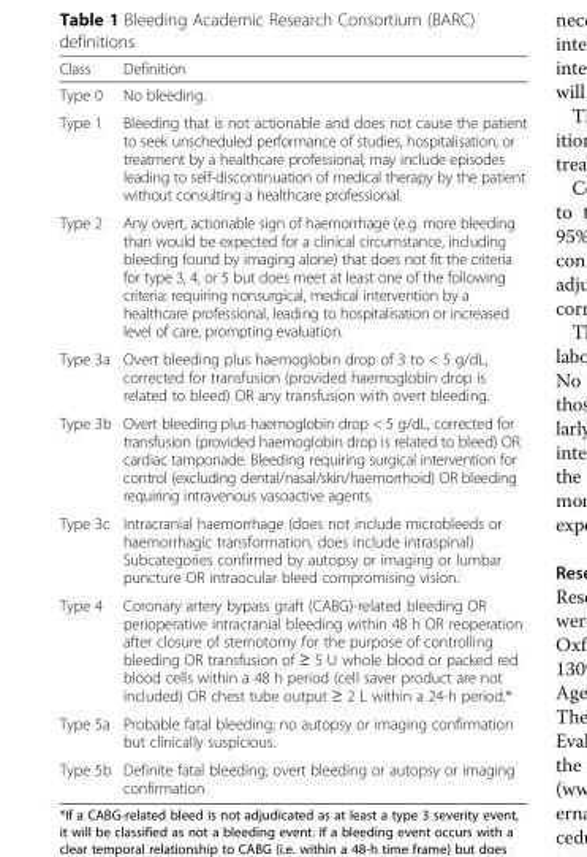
<table><thead><tr><td>Class</td><td>Definition</td></tr></thead><tbody><tr><td>Type 0</td><td>No bleeding.</td></tr><tr><td>Type 1</td><td>Bleeding that is not actionable and does not cause the patient to seek unscheduled performance of studies, hospitalisation, or treatment by a healthcare professional; may include episodes leading to self-discontinuation of medical therapy by the patient without consulting a healthcare professional.</td></tr><tr><td>Type 2</td><td>Any overt, actionable sign of haemorrhage (e.g. more bleeding than would be expected for a clinical circumstance, including bleeding found by imaging alone) that does not fit the criteria for type 3, 4, or 5 but does meet at least one of the following criteria: requiring nonsurgical, medical intervention by a healthcare professional, leading to hospitalisation or increased level of care, prompting evaluation.</td></tr><tr><td>Type 3a</td><td>Overt bleeding plus haemoglobin drop of 3 to &lt; 5 g/dL, corrected for transfusion (provided haemoglobin drop is related to bleed) OR any transfusion with overt bleeding.</td></tr><tr><td>Type 3b</td><td>Overt bleeding plus haemoglobin drop &lt; 5 g/dL, corrected for transfusion (provided haemoglobin drop is related to bleed) OR cardiac tamponade. Bleeding requiring surgical intervention for control (excluding dental/nasal/skin/haemorrhoid) OR bleeding requiring intravenous vasoactive agents.</td></tr><tr><td>Type 3c</td><td>Intracranial haemorrhage (does not include microbleeds or haemorrhagic transformation, does include intraspinal) Subcategories confirmed by autopsy or imaging or lumbar puncture OR intraocular bleed compromising vision.</td></tr><tr><td>Type 4</td><td>Coronary artery bypass graft (CABG)-related bleeding OR perioperative intracranial bleeding within 48 h OR reoperation after closure of sternotomy for the purpose of controlling bleeding OR transfusion of ≥ 5 U whole blood or packed red blood cells within a 48 h period (cell saver product are not included) OR chest tube output ≥ 2 L within a 24-h period.*</td></tr><tr><td>Type 5a</td><td>Probable fatal bleeding; no autopsy or imaging confirmation but clinically suspicious.</td></tr><tr><td>Type 5b</td><td>Definite fatal bleeding; overt bleeding or autopsy or imaging confirmation</td></tr></tbody></table>